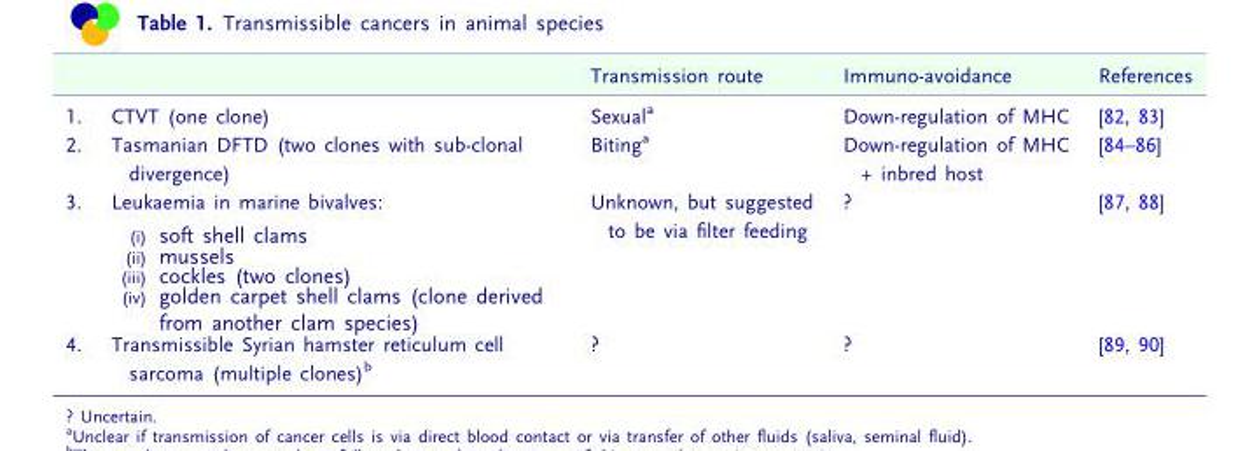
<table><thead><tr><td></td><td></td><td>Transmission route</td><td>Immuno-avoidance</td><td>References</td></tr></thead><tbody><tr><td>1.</td><td>CTVT (one clone)</td><td>Sexual<sup>a</sup></td><td>Down-regulation of MHC</td><td>[82, 83]</td></tr><tr><td>2.</td><td>Tasmanian DFTD (two clones with sub-clonal divergence)</td><td>Biting<sup>a</sup></td><td>Down-regulation of MHC + inbred host</td><td>[84–86]</td></tr><tr><td>3.</td><td>Leukaemia in marine bivalves: (i) soft shell clams (ii) mussels (iii) cockles (two clones) (iv) golden carpet shell clams (clone derived from another clam species)</td><td>Unknown, but suggested to be via filter feeding</td><td>?</td><td>[87, 88]</td></tr><tr><td>4.</td><td>Transmissible Syrian hamster reticulum cell sarcoma (multiple clones)<sup>b</sup></td><td>?</td><td>?</td><td>[89, 90]</td></tr></tbody></table>